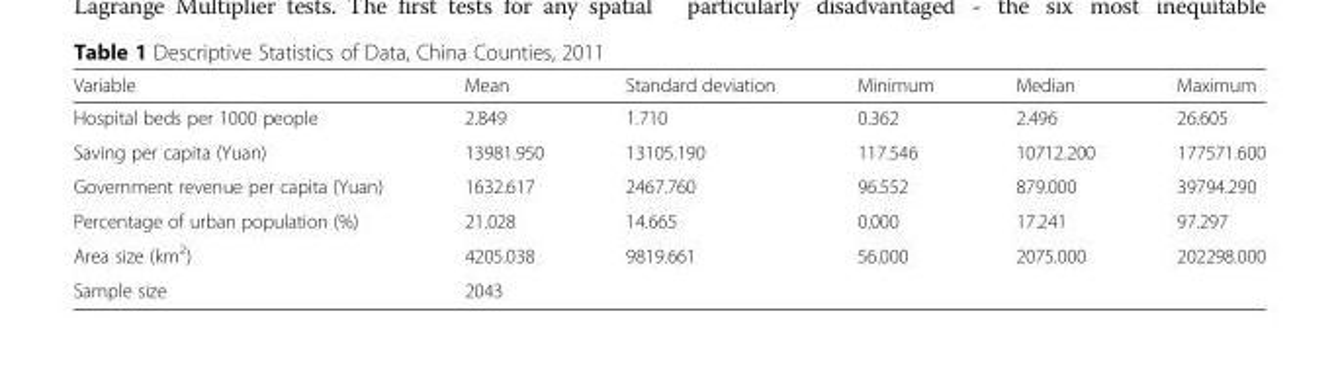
<table><thead><tr><td>Variable</td><td>Mean</td><td>Standard deviation</td><td>Minimum</td><td>Median</td><td>Maximum</td></tr></thead><tbody><tr><td>Hospital beds per 1000 people</td><td>2.849</td><td>1.710</td><td>0.362</td><td>2.496</td><td>26.605</td></tr><tr><td>Saving per capita (Yuan)</td><td>13981.950</td><td>13105.190</td><td>117.546</td><td>10712.200</td><td>177571.600</td></tr><tr><td>Government revenue per capita (Yuan)</td><td>1632.617</td><td>2467.760</td><td>96.552</td><td>879.000</td><td>39794.290</td></tr><tr><td>Percentage of urban population (%)</td><td>21.028</td><td>14.665</td><td>0.000</td><td>17.241</td><td>97.297</td></tr><tr><td>Area size (km<sup>2</sup>)</td><td>4205.038</td><td>9819.661</td><td>56.000</td><td>2075.000</td><td>202298.000</td></tr><tr><td>Sample size</td><td>2043</td><td></td><td></td><td></td><td></td></tr></tbody></table>